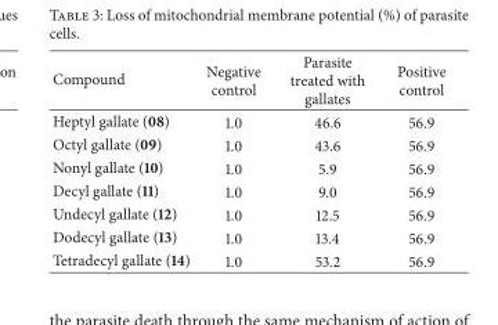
<table><thead><tr><td>Compound</td><td>Negative control</td><td>Parasite treated with gallates</td><td>Positive control</td></tr></thead><tbody><tr><td>Heptyl gallate (08)</td><td>1.0</td><td>46.6</td><td>56.9</td></tr><tr><td>Octyl gallate (09)</td><td>1.0</td><td>43.6</td><td>56.9</td></tr><tr><td>Nonyl gallate (10)</td><td>1.0</td><td>5.9</td><td>56.9</td></tr><tr><td>Decyl gallate (11)</td><td>1.0</td><td>9.0</td><td>56.9</td></tr><tr><td>Undecyl gallate (12)</td><td>1.0</td><td>12.5</td><td>56.9</td></tr><tr><td>Dodecyl gallate (13)</td><td>1.0</td><td>13.4</td><td>56.9</td></tr><tr><td>Tetradecyl gallate (14)</td><td>1.0</td><td>53.2</td><td>56.9</td></tr></tbody></table>